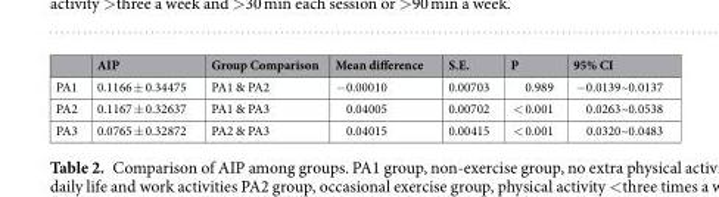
<table><thead><tr><td></td><td>AIP</td><td>Group Comparison</td><td>Mean difference</td><td>S.E.</td><td>P</td><td>95% CI</td></tr></thead><tbody><tr><td>PA1</td><td>0.1166 ± 0.34475</td><td>PA1 &amp; PA2</td><td>−0.00010</td><td>0.00703</td><td>0.989</td><td>−0.0139~0.0137</td></tr><tr><td>PA2</td><td>0.1167 ± 0.32637</td><td>PA1 &amp; PA3</td><td>0.04005</td><td>0.00702</td><td>&lt; 0.001</td><td>0.0263~0.0538</td></tr><tr><td>PA3</td><td>0.0765 ± 0.32872</td><td>PA2 &amp; PA3</td><td>0.04015</td><td>0.00415</td><td>&lt; 0.001</td><td>0.0320~0.0483</td></tr></tbody></table>